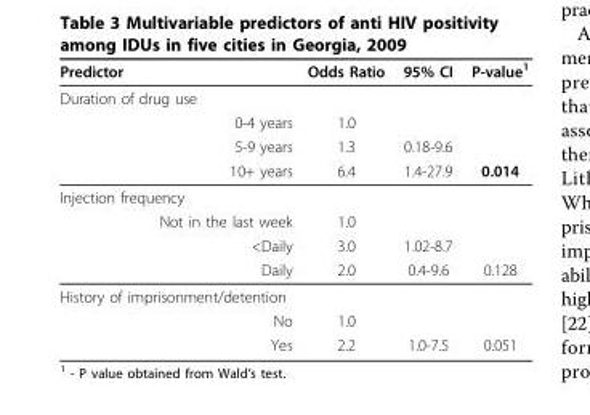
<table><thead><tr><td>Predictor</td><td>Odds Ratio</td><td>95% CI</td><td>P-value<sup>1</sup></td></tr></thead><tbody><tr><td colspan="4">Duration of drug use</td></tr><tr><td>0-4 years</td><td>1.0</td><td></td><td></td></tr><tr><td>5-9 years</td><td>1.3</td><td>0.18-9.6</td><td></td></tr><tr><td>10+ years</td><td>6.4</td><td>1.4-27.9</td><td>0.014</td></tr><tr><td colspan="4">Injection frequency</td></tr><tr><td>Not in the last week</td><td>1.0</td><td></td><td></td></tr><tr><td>&lt;Daily</td><td>3.0</td><td>1.02-8.7</td><td></td></tr><tr><td>Daily</td><td>2.0</td><td>0.4-9.6</td><td>0.128</td></tr><tr><td colspan="4">History of imprisonment/detention</td></tr><tr><td>No</td><td>1.0</td><td></td><td></td></tr><tr><td>Yes</td><td>2.2</td><td>1.0-7.5</td><td>0.051</td></tr></tbody></table>